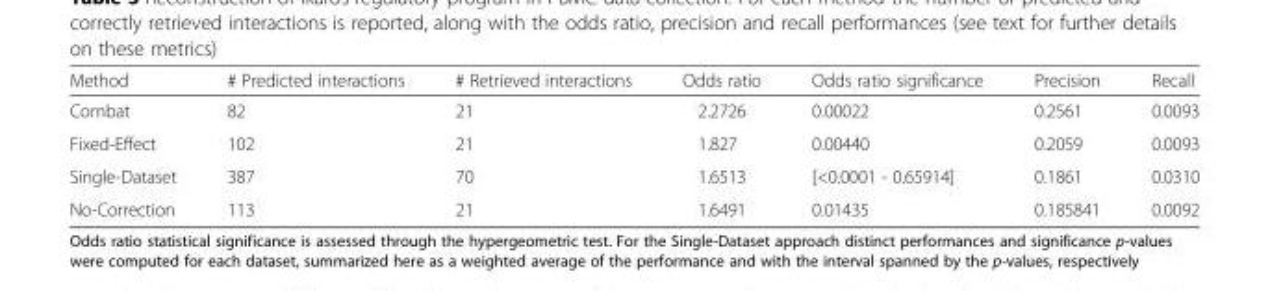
<table><thead><tr><td>Method</td><td># Predicted interactions</td><td># Retrieved interactions</td><td>Odds ratio</td><td>Odds ratio significance</td><td>Precision</td><td>Recall</td></tr></thead><tbody><tr><td>Combat</td><td>82</td><td>21</td><td>2.2726</td><td>0.00022</td><td>0.2561</td><td>0.0093</td></tr><tr><td>Fixed-Effect</td><td>102</td><td>21</td><td>1.827</td><td>0.00440</td><td>0.2059</td><td>0.0093</td></tr><tr><td>Single-Dataset</td><td>387</td><td>70</td><td>1.6513</td><td>[&lt;0.0001 - 0.65914]</td><td>0.1861</td><td>0.0310</td></tr><tr><td>No-Correction</td><td>113</td><td>21</td><td>1.6491</td><td>0.01435</td><td>0.185841</td><td>0.0092</td></tr></tbody></table>